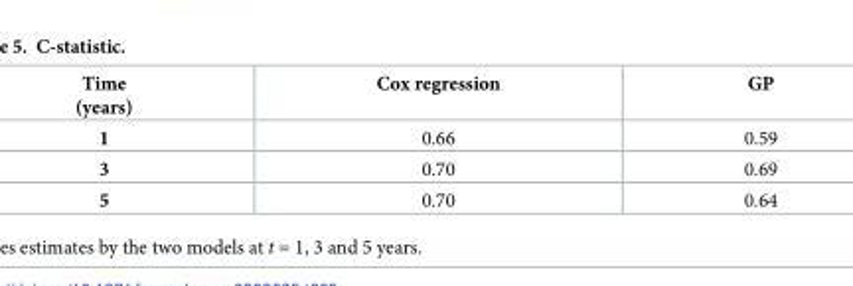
<table><thead><tr><td>Time (years)</td><td>Cox regression</td><td>GP</td></tr></thead><tbody><tr><td>1</td><td>0.66</td><td>0.59</td></tr><tr><td>3</td><td>0.70</td><td>0.69</td></tr><tr><td>5</td><td>0.70</td><td>0.64</td></tr></tbody></table>